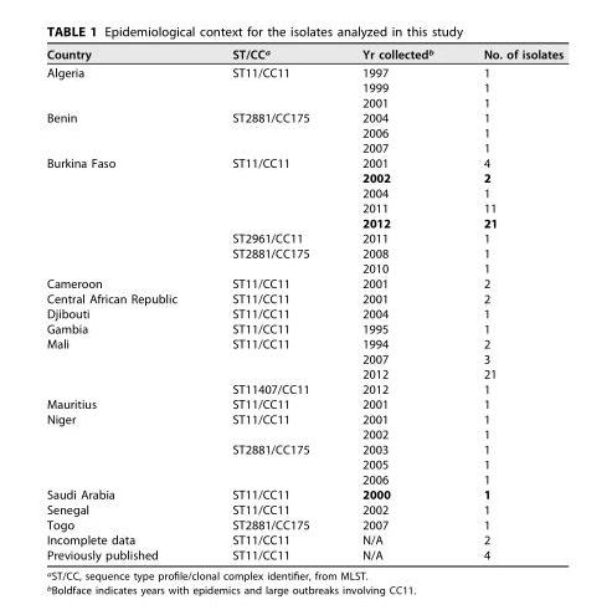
<table><thead><tr><td>Country</td><td>ST/CC<sup>a</sup></td><td>Yr collected<sup>b</sup></td><td>No. of isolates</td></tr></thead><tbody><tr><td rowspan="3">Algeria</td><td>ST11/CC11</td><td>1997</td><td>1</td></tr><tr><td></td><td>1999</td><td>1</td></tr><tr><td></td><td>2001</td><td>1</td></tr><tr><td rowspan="3">Benin</td><td>ST2881/CC175</td><td>2004</td><td>1</td></tr><tr><td></td><td>2006</td><td>1</td></tr><tr><td></td><td>2007</td><td>1</td></tr><tr><td rowspan="8">Burkina Faso</td><td>ST11/CC11</td><td>2001</td><td>4</td></tr><tr><td></td><td>2002</td><td>2</td></tr><tr><td></td><td>2004</td><td>1</td></tr><tr><td></td><td>2011</td><td>11</td></tr><tr><td></td><td>2012</td><td>21</td></tr><tr><td>ST2961/CC11</td><td>2011</td><td>1</td></tr><tr><td>ST2881/CC175</td><td>2008</td><td>1</td></tr><tr><td></td><td>2010</td><td>1</td></tr><tr><td>Cameroon</td><td>ST11/CC11</td><td>2001</td><td>2</td></tr><tr><td>Central African Republic</td><td>ST11/CC11</td><td>2001</td><td>2</td></tr><tr><td>Djibouti</td><td>ST11/CC11</td><td>2004</td><td>1</td></tr><tr><td>Gambia</td><td>ST11/CC11</td><td>1995</td><td>1</td></tr><tr><td rowspan="4">Mali</td><td>ST11/CC11</td><td>1994</td><td>2</td></tr><tr><td></td><td>2007</td><td>3</td></tr><tr><td></td><td>2012</td><td>21</td></tr><tr><td>ST11407/CC11</td><td>2012</td><td>1</td></tr><tr><td>Mauritius</td><td>ST11/CC11</td><td>2001</td><td>1</td></tr><tr><td rowspan="5">Niger</td><td>ST11/CC11</td><td>2001</td><td>1</td></tr><tr><td></td><td>2002</td><td>1</td></tr><tr><td>ST2881/CC175</td><td>2003</td><td>1</td></tr><tr><td></td><td>2005</td><td>1</td></tr><tr><td></td><td>2006</td><td>1</td></tr><tr><td>Saudi Arabia</td><td>ST11/CC11</td><td>2000</td><td>1</td></tr><tr><td>Senegal</td><td>ST11/CC11</td><td>2002</td><td>1</td></tr><tr><td>Togo</td><td>ST2881/CC175</td><td>2007</td><td>1</td></tr><tr><td>Incomplete data</td><td>ST11/CC11</td><td>N/A</td><td>2</td></tr><tr><td>Previously published</td><td>ST11/CC11</td><td>N/A</td><td>4</td></tr></tbody></table>